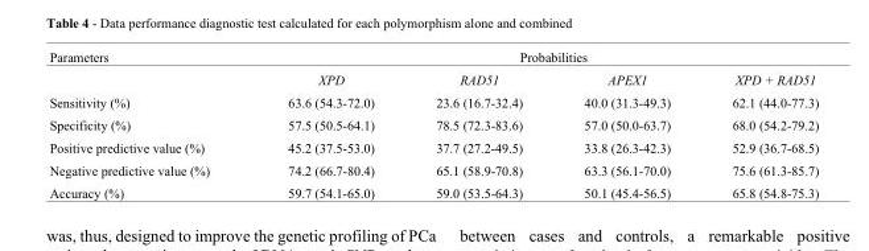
<table><thead><tr><td rowspan="2">Parameters</td><td colspan="4">Probabilities</td></tr><tr><td>XPD</td><td>RAD51</td><td>APEX1</td><td>XPD + RAD51</td></tr></thead><tbody><tr><td>Sensitivity (%)</td><td>63.6 (54.3-72.0)</td><td>23.6 (16.7-32.4)</td><td>40.0 (31.3-49.3)</td><td>62.1 (44.0-77.3)</td></tr><tr><td>Specificity (%)</td><td>57.5 (50.5-64.1)</td><td>78.5 (72.3-83.6)</td><td>57.0 (50.0-63.7)</td><td>68.0 (54.2-79.2)</td></tr><tr><td>Positive predictive value (%)</td><td>45.2 (37.5-53.0)</td><td>37.7 (27.2-49.5)</td><td>33.8 (26.3-42.3)</td><td>52.9 (36.7-68.5)</td></tr><tr><td>Negative predictive value (%)</td><td>74.2 (66.7-80.4)</td><td>65.1 (58.9-70.8)</td><td>63.3 (56.1-70.0)</td><td>75.6 (61.3-85.7)</td></tr><tr><td>Accuracy (%)</td><td>59.7 (54.1-65.0)</td><td>59.0 (53.5-64.3)</td><td>50.1 (45.4-56.5)</td><td>65.8 (54.8-75.3)</td></tr></tbody></table>